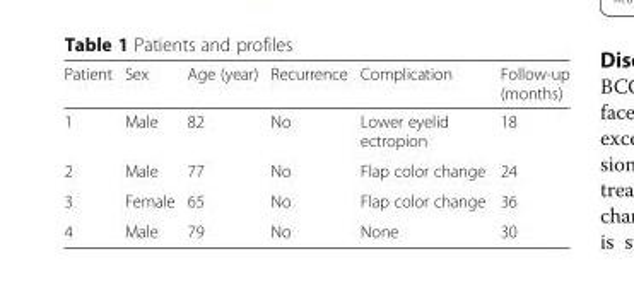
<table><thead><tr><td>Patient</td><td>Sex</td><td>Age (year)</td><td>Recurrence</td><td>Complication</td><td>Follow-up (months)</td></tr></thead><tbody><tr><td>1</td><td>Male</td><td>82</td><td>No</td><td>Lower eyelid ectropion</td><td>18</td></tr><tr><td>2</td><td>Male</td><td>77</td><td>No</td><td>Flap color change</td><td>24</td></tr><tr><td>3</td><td>Female</td><td>65</td><td>No</td><td>Flap color change</td><td>36</td></tr><tr><td>4</td><td>Male</td><td>79</td><td>No</td><td>None</td><td>30</td></tr></tbody></table>